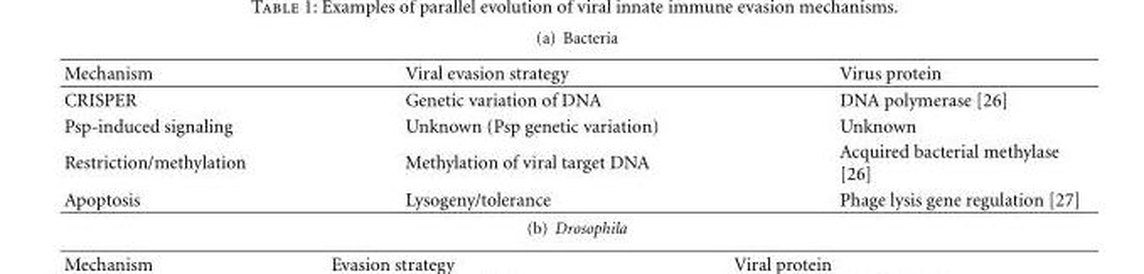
<table><thead><tr><td>Mechanism</td><td>Viral evasion strategy</td><td>Virus protein</td></tr></thead><tbody><tr><td>CRISPER</td><td>Genetic variation of DNA</td><td>DNA polymerase [26]</td></tr><tr><td>Psp-induced signaling</td><td>Unknown (Psp genetic variation)</td><td>Unknown</td></tr><tr><td>Restriction/methylation</td><td>Methylation of viral target DNA</td><td>Acquired bacterial methylase [26]</td></tr><tr><td>Apoptosis</td><td>Lysogeny/tolerance</td><td>Phage lysis gene regulation [27]</td></tr></tbody></table>